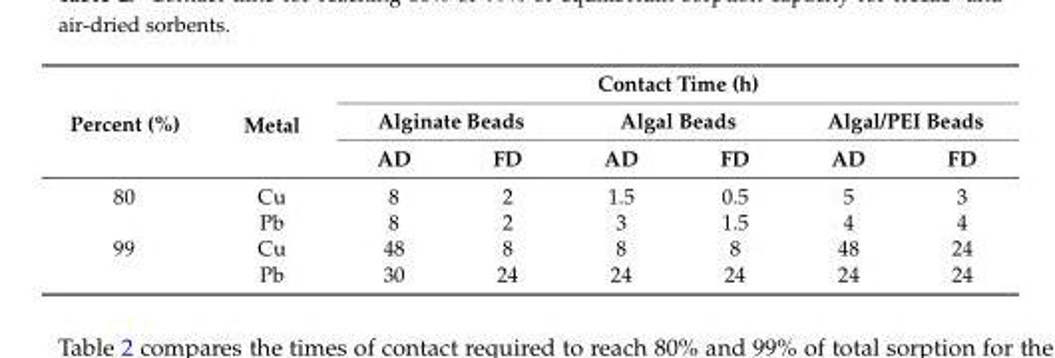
<table><thead><tr><td rowspan="3">Percent (%)</td><td rowspan="3">Metal</td><td colspan="6">Contact Time (h)</td></tr><tr><td colspan="2">Alginate Beads</td><td colspan="2">Algal Beads</td><td colspan="2">Algal/PEI Beads</td></tr><tr><td>AD</td><td>FD</td><td>AD</td><td>FD</td><td>AD</td><td>FD</td></tr></thead><tbody><tr><td rowspan="2">80</td><td>Cu</td><td>8</td><td>2</td><td>1.5</td><td>0.5</td><td>5</td><td>3</td></tr><tr><td>Pb</td><td>8</td><td>2</td><td>3</td><td>1.5</td><td>4</td><td>4</td></tr><tr><td rowspan="2">99</td><td>Cu</td><td>48</td><td>8</td><td>8</td><td>8</td><td>48</td><td>24</td></tr><tr><td>Pb</td><td>30</td><td>24</td><td>24</td><td>24</td><td>24</td><td>24</td></tr></tbody></table>